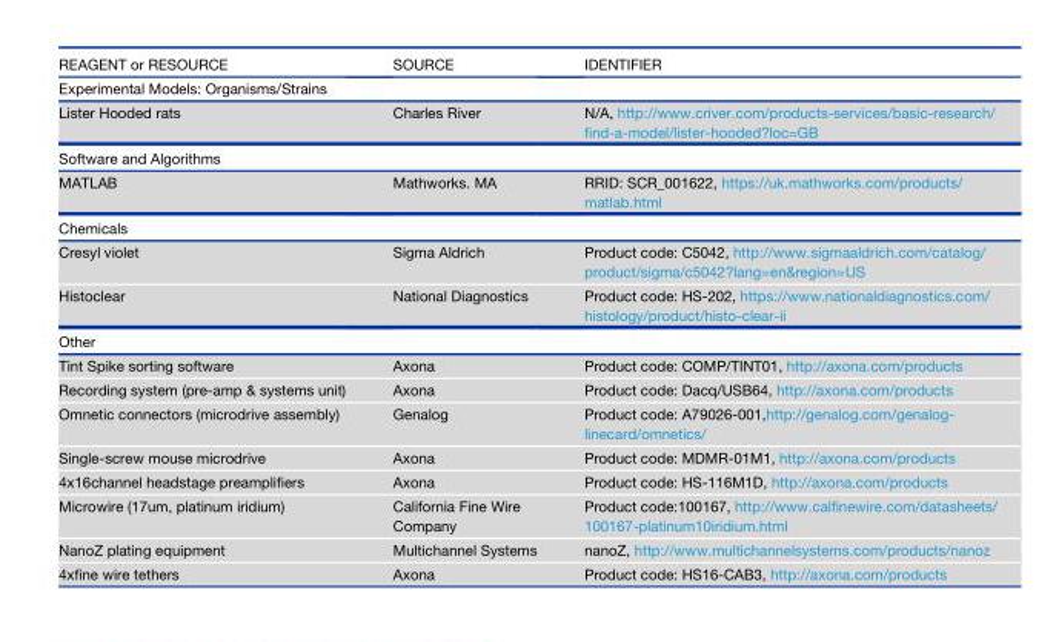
<table><thead><tr><td>REAGENT or RESOURCE</td><td>SOURCE</td><td>IDENTIFIER</td></tr></thead><tbody><tr><td colspan="3">Experimental Models: Organisms/Strains</td></tr><tr><td>Lister Hooded rats</td><td>Charles River</td><td>N/A, http://www.criver.com/products-services/basic-research/ find-a-model/lister-hooded?loc=GB</td></tr><tr><td colspan="3">Software and Algorithms</td></tr><tr><td>MATLAB</td><td>Mathworks. MA</td><td>RRID: SCR_001622, https://uk.mathworks.com/products/ matlab.html</td></tr><tr><td colspan="3">Chemicals</td></tr><tr><td>Cresyl violet</td><td>Sigma Aldrich</td><td>Product code: C5042, http://www.sigmaaldrich.com/catalog/ product/sigma/c5042?lang=en&amp;region=US</td></tr><tr><td>Histoclear</td><td>National Diagnostics</td><td>Product code: HS-202, https://www.nationaldiagnostics.com/ histology/product/histo-clear-ii</td></tr><tr><td colspan="3">Other</td></tr><tr><td>Tint Spike sorting software</td><td>Axona</td><td>Product code: COMP/TINT01, http://axona.com/products</td></tr><tr><td>Recording system (pre-amp &amp; systems unit)</td><td>Axona</td><td>Product code: Dacq/USB64, http://axona.com/products</td></tr><tr><td>Omnetic connectors (microdrive assembly)</td><td>Genalog</td><td>Product code: A79026-001,http://genalog.com/genalog- linecard/omnetics/</td></tr><tr><td>Single-screw mouse microdrive</td><td>Axona</td><td>Product code: MDMR-01M1, http://axona.com/products</td></tr><tr><td>4x16channel headstage preamplifiers</td><td>Axona</td><td>Product code: HS-116M1D, http://axona.com/products</td></tr><tr><td>Microwire (17um, platinum iridium)</td><td>California Fine Wire Company</td><td>Product code:100167, http://www.calfinewire.com/datasheets/ 100167-platinum10iridium.html</td></tr><tr><td>NanoZ plating equipment</td><td>Multichannel Systems</td><td>nanoZ, http://www.multichannelsystems.com/products/nanoz</td></tr><tr><td>4xfine wire tethers</td><td>Axona</td><td>Product code: HS16-CAB3, http://axona.com/products</td></tr></tbody></table>